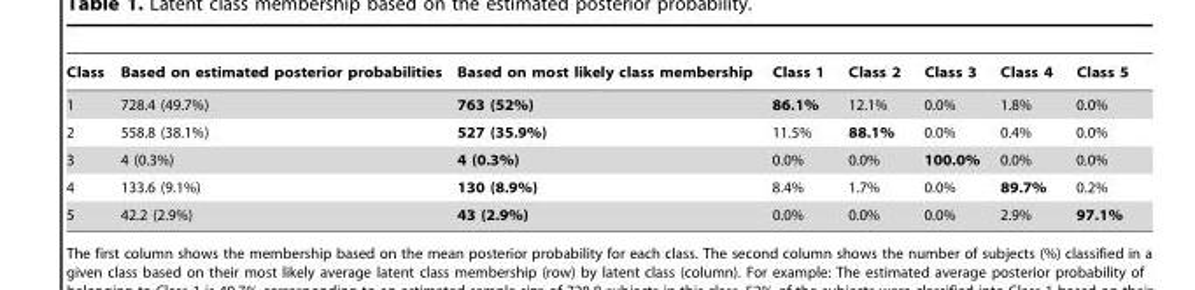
<table><thead><tr><td>Class</td><td>Based on estimated posterior probabilities</td><td>Based on most likely class membership</td><td>Class 1</td><td>Class 2</td><td>Class 3</td><td>Class 4</td><td>Class 5</td></tr></thead><tbody><tr><td>1</td><td>728.4 (49.7%)</td><td>763 (52%)</td><td>86.1%</td><td>12.1%</td><td>0.0%</td><td>1.8%</td><td>0.0%</td></tr><tr><td>2</td><td>558.8 (38.1%)</td><td>527 (35.9%)</td><td>11.5%</td><td>88.1%</td><td>0.0%</td><td>0.4%</td><td>0.0%</td></tr><tr><td>3</td><td>4 (0.3%)</td><td>4 (0.3%)</td><td>0.0%</td><td>0.0%</td><td>100.0%</td><td>0.0%</td><td>0.0%</td></tr><tr><td>4</td><td>133.6 (9.1%)</td><td>130 (8.9%)</td><td>8.4%</td><td>1.7%</td><td>0.0%</td><td>89.7%</td><td>0.2%</td></tr><tr><td>5</td><td>42.2 (2.9%)</td><td>43 (2.9%)</td><td>0.0%</td><td>0.0%</td><td>0.0%</td><td>2.9%</td><td>97.1%</td></tr></tbody></table>